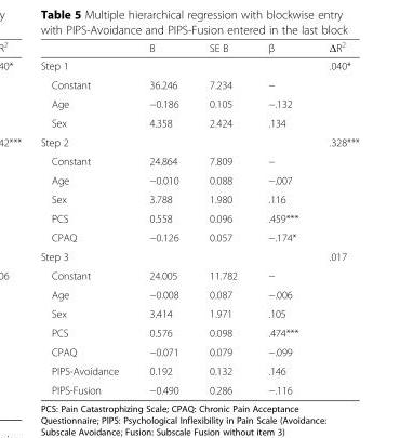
<table><thead><tr><td></td><td>B</td><td>SE B</td><td>β</td><td>ΔR<sup>2</sup></td></tr></thead><tbody><tr><td>Step 1</td><td></td><td></td><td></td><td>.040*</td></tr><tr><td>Constant</td><td>36.246</td><td>7.234</td><td>−</td><td></td></tr><tr><td>Age</td><td>−0.186</td><td>0.105</td><td>−.132</td><td></td></tr><tr><td>Sex</td><td>4.358</td><td>2.424</td><td>.134</td><td></td></tr><tr><td>Step 2</td><td></td><td></td><td></td><td>.328***</td></tr><tr><td>Constant</td><td>24.864</td><td>7.809</td><td>−</td><td></td></tr><tr><td>Age</td><td>−0.010</td><td>0.088</td><td>−.007</td><td></td></tr><tr><td>Sex</td><td>3.788</td><td>1.980</td><td>.116</td><td></td></tr><tr><td>PCS</td><td>0.558</td><td>0.096</td><td>.459***</td><td></td></tr><tr><td>CPAQ</td><td>−0.126</td><td>0.057</td><td>−.174*</td><td></td></tr><tr><td>Step 3</td><td></td><td></td><td></td><td>.017</td></tr><tr><td>Constant</td><td>24.005</td><td>11.782</td><td>−</td><td></td></tr><tr><td>Age</td><td>−0.008</td><td>0.087</td><td>−.006</td><td></td></tr><tr><td>Sex</td><td>3.414</td><td>1.971</td><td>.105</td><td></td></tr><tr><td>PCS</td><td>0.576</td><td>0.098</td><td>.474***</td><td></td></tr><tr><td>CPAQ</td><td>−0.071</td><td>0.079</td><td>−.099</td><td></td></tr><tr><td>PIPS-Avoidance</td><td>0.192</td><td>0.132</td><td>.146</td><td></td></tr><tr><td>PIPS-Fusion</td><td>−0.490</td><td>0.286</td><td>−.116</td><td></td></tr></tbody></table>